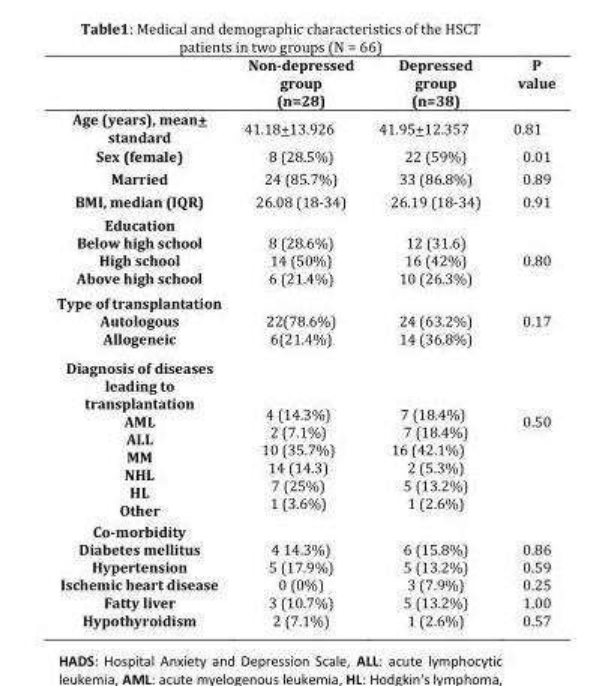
<table><thead><tr><td></td><td>Non-depressed group (n=28)</td><td>Depressed group (n=38)</td><td>P value</td></tr></thead><tbody><tr><td>Age (years), mean+ standard</td><td>41.18+13.926</td><td>41.95+12.357</td><td>0.81</td></tr><tr><td>Sex (female)</td><td>8 (28.5%)</td><td>22 (59%)</td><td>0.01</td></tr><tr><td>Married</td><td>24 (85.7%)</td><td>33 (86.8%)</td><td>0.89</td></tr><tr><td>BMI, median (IQR)</td><td>26.08 (18-34)</td><td>26.19 (18-34)</td><td>0.91</td></tr><tr><td>Education Below high school High school Above high school</td><td>8 (28.6%) 14 (50%) 6 (21.4%)</td><td>12 (31.6) 16 (42%) 10 (26.3%)</td><td>0.80</td></tr><tr><td>Type of transplantation Autologous Allogeneic</td><td>22(78.6%) 6(21.4%)</td><td>24 (63.2%) 14 (36.8%)</td><td>0.17</td></tr><tr><td>Diagnosis of diseases leading to transplantation AML ALL MM NHL HL Other</td><td>4 (14.3%) 2 (7.1%) 10 (35.7%) 14 (14.3) 7 (25%) 1 (3.6%)</td><td>7 (18.4%) 7 (18.4%) 16 (42.1%) 2 (5.3%) 5 (13.2%) 1 (2.6%)</td><td>0.50</td></tr><tr><td>Co-morbidity Diabetes mellitus Hypertension Ischemic heart disease Fatty liver Hypothyroidism</td><td>4 14.3%) 5 (17.9%) 0 (0%) 3 (10.7%) 2 (7.1%)</td><td>6 (15.8%) 5 (13.2%) 3 (7.9%) 5 (13.2%) 1 (2.6%)</td><td>0.86 0.59 0.25 1.00 0.57</td></tr></tbody></table>